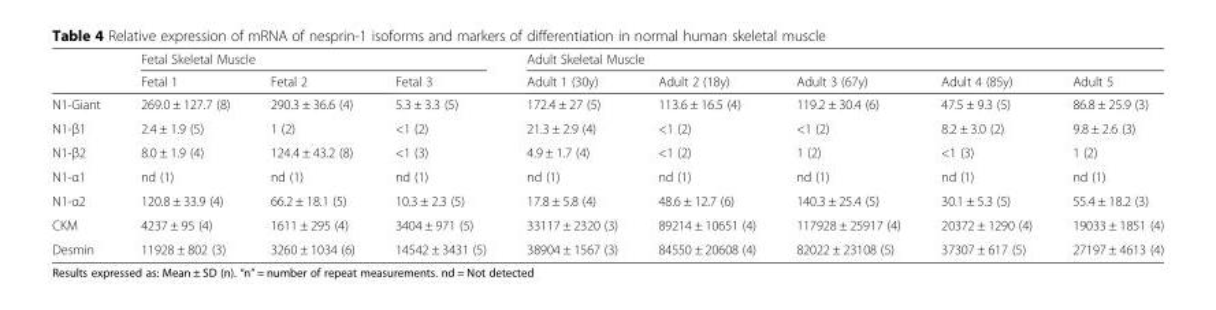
<table><thead><tr><td rowspan="2"></td><td colspan="3">Fetal Skeletal Muscle</td><td colspan="5">Adult Skeletal Muscle</td></tr><tr><td>Fetal 1</td><td>Fetal 2</td><td>Fetal 3</td><td>Adult 1 (30y)</td><td>Adult 2 (18y)</td><td>Adult 3 (67y)</td><td>Adult 4 (85y)</td><td>Adult 5</td></tr></thead><tbody><tr><td>N1-Giant</td><td>269.0 ± 127.7 (8)</td><td>290.3 ± 36.6 (4)</td><td>5.3 ± 3.3 (5)</td><td>172.4 ± 27 (5)</td><td>113.6 ± 16.5 (4)</td><td>119.2 ± 30.4 (6)</td><td>47.5 ± 9.3 (5)</td><td>86.8 ± 25.9 (3)</td></tr><tr><td>N1-β1</td><td>2.4 ± 1.9 (5)</td><td>1 (2)</td><td>&lt;1 (2)</td><td>21.3 ± 2.9 (4)</td><td>&lt;1 (2)</td><td>&lt;1 (2)</td><td>8.2 ± 3.0 (2)</td><td>9.8 ± 2.6 (3)</td></tr><tr><td>N1-β2</td><td>8.0 ± 1.9 (4)</td><td>124.4 ± 43.2 (8)</td><td>&lt;1 (3)</td><td>4.9 ± 1.7 (4)</td><td>&lt;1 (2)</td><td>1 (2)</td><td>&lt;1 (3)</td><td>1 (2)</td></tr><tr><td>N1-α1</td><td>nd (1)</td><td>nd (1)</td><td>nd (1)</td><td>nd (1)</td><td>nd (1)</td><td>nd (1)</td><td>nd (1)</td><td>nd (1)</td></tr><tr><td>N1-α2</td><td>120.8 ± 33.9 (4)</td><td>66.2 ± 18.1 (5)</td><td>10.3 ± 2.3 (5)</td><td>17.8 ± 5.8 (4)</td><td>48.6 ± 12.7 (6)</td><td>140.3 ± 25.4 (5)</td><td>30.1 ± 5.3 (5)</td><td>55.4 ± 18.2 (3)</td></tr><tr><td>CKM</td><td>4237 ± 95 (4)</td><td>1611 ± 295 (4)</td><td>3404 ± 971 (5)</td><td>33117 ± 2320 (3)</td><td>89214 ± 10651 (4)</td><td>117928 ± 25917 (4)</td><td>20372 ± 1290 (4)</td><td>19033 ± 1851 (4)</td></tr><tr><td>Desmin</td><td>11928 ± 802 (3)</td><td>3260 ± 1034 (6)</td><td>14542 ± 3431 (5)</td><td>38904 ± 1567 (3)</td><td>84550 ± 20608 (4)</td><td>82022 ± 23108 (5)</td><td>37307 ± 617 (5)</td><td>27197 ± 4613 (4)</td></tr></tbody></table>